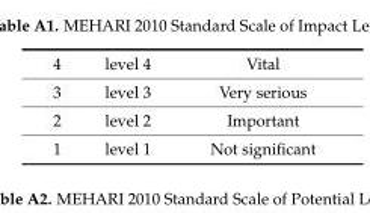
<table><tbody><tr><td>4</td><td>level 4</td><td>Vital</td></tr><tr><td>3</td><td>level 3</td><td>Very serious</td></tr><tr><td>2</td><td>level 2</td><td>Important</td></tr><tr><td>1</td><td>level 1</td><td>Not significant</td></tr></tbody></table>